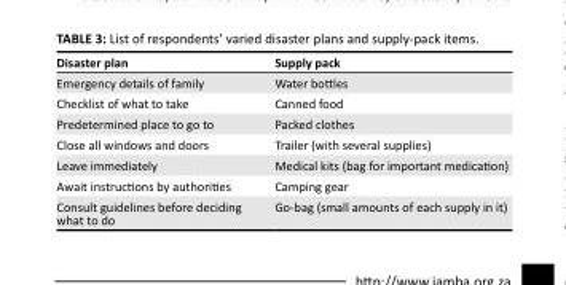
<table><thead><tr><td>Disaster plan</td><td>Supply pack</td></tr></thead><tbody><tr><td>Emergency details of family</td><td>Water bottles</td></tr><tr><td>Checklist of what to take</td><td>Canned food</td></tr><tr><td>Predetermined place to go to</td><td>Packed clothes</td></tr><tr><td>Close all windows and doors</td><td>Trailer (with several supplies)</td></tr><tr><td>Leave immediately</td><td>Medical kits (bag for important medication)</td></tr><tr><td>Await instructions by authorities</td><td>Camping gear</td></tr><tr><td>Consult guidelines before deciding what to do</td><td>Go-bag (small amounts of each supply in it)</td></tr></tbody></table>